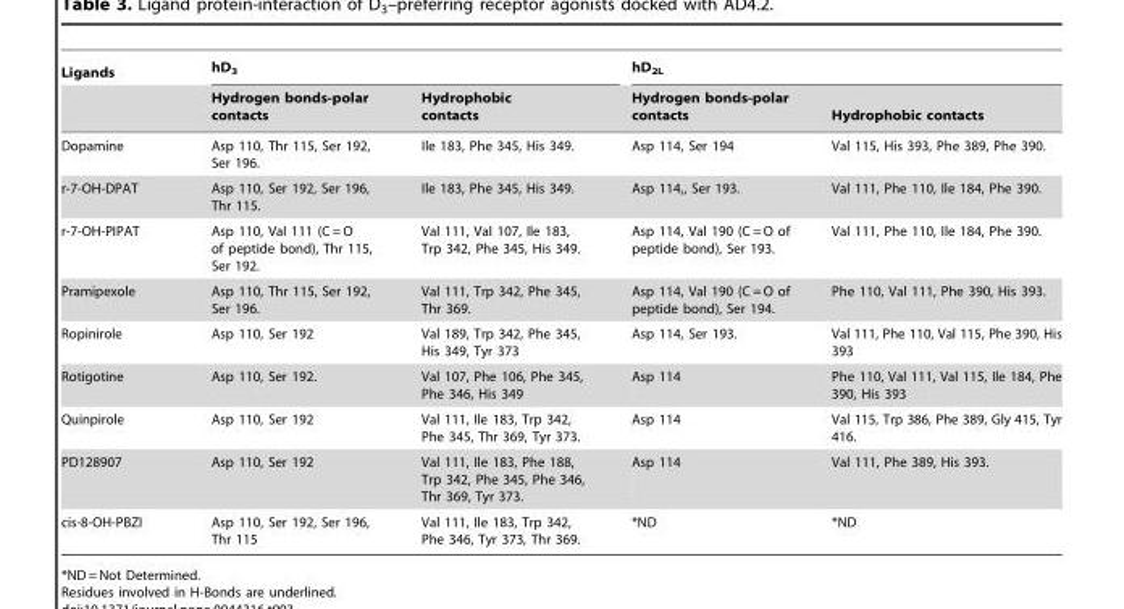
<table><thead><tr><td rowspan="2">Ligands</td><td colspan="2">hD<sub>3</sub></td><td colspan="2">hD<sub>2L</sub></td></tr><tr><td>Hydrogen bonds-polar contacts</td><td>Hydrophobic contacts</td><td>Hydrogen bonds-polar contacts</td><td>Hydrophobic contacts</td></tr></thead><tbody><tr><td>Dopamine</td><td>Asp 110, Thr 115, Ser 192, Ser 196.</td><td>Ile 183, Phe 345, His 349.</td><td>Asp 114, Ser 194</td><td>Val 115, His 393, Phe 389, Phe 390.</td></tr><tr><td>r-7-OH-DPAT</td><td>Asp 110, Ser 192, Ser 196, Thr 115.</td><td>Ile 183, Phe 345, His 349.</td><td>Asp 114,, Ser 193.</td><td>Val 111, Phe 110, Ile 184, Phe 390.</td></tr><tr><td>r-7-OH-PIPAT</td><td>Asp 110, Val 111 (C = O of peptide bond), Thr 115, Ser 192.</td><td>Val 111, Val 107, Ile 183, Trp 342, Phe 345, His 349.</td><td>Asp 114, Val 190 (C = O of peptide bond), Ser 193.</td><td>Val 111, Phe 110, Ile 184, Phe 390.</td></tr><tr><td>Pramipexole</td><td>Asp 110, Thr 115, Ser 192, Ser 196.</td><td>Val 111, Trp 342, Phe 345, Thr 369.</td><td>Asp 114, Val 190 (C = O of peptide bond), Ser 194.</td><td>Phe 110, Val 111, Phe 390, His 393.</td></tr><tr><td>Ropinirole</td><td>Asp 110, Ser 192</td><td>Val 189, Trp 342, Phe 345, His 349, Tyr 373</td><td>Asp 114, Ser 193.</td><td>Val 111, Phe 110, Val 115, Phe 390, His 393</td></tr><tr><td>Rotigotine</td><td>Asp 110, Ser 192.</td><td>Val 107, Phe 106, Phe 345, Phe 346, His 349</td><td>Asp 114</td><td>Phe 110, Val 111, Val 115, Ile 184, Phe 390, His 393</td></tr><tr><td>Quinpirole</td><td>Asp 110, Ser 192</td><td>Val 111, Ile 183, Trp 342, Phe 345, Thr 369, Tyr 373.</td><td>Asp 114</td><td>Val 115, Trp 386, Phe 389, Gly 415, Tyr 416.</td></tr><tr><td>PD128907</td><td>Asp 110, Ser 192</td><td>Val 111, Ile 183, Phe 188, Trp 342, Phe 345, Phe 346, Thr 369, Tyr 373.</td><td>Asp 114</td><td>Val 111, Phe 389, His 393.</td></tr><tr><td>cis-8-OH-PBZI</td><td>Asp 110, Ser 192, Ser 196, Thr 115</td><td>Val 111, Ile 183, Trp 342, Phe 346, Tyr 373, Thr 369.</td><td>*ND</td><td>*ND</td></tr></tbody></table>